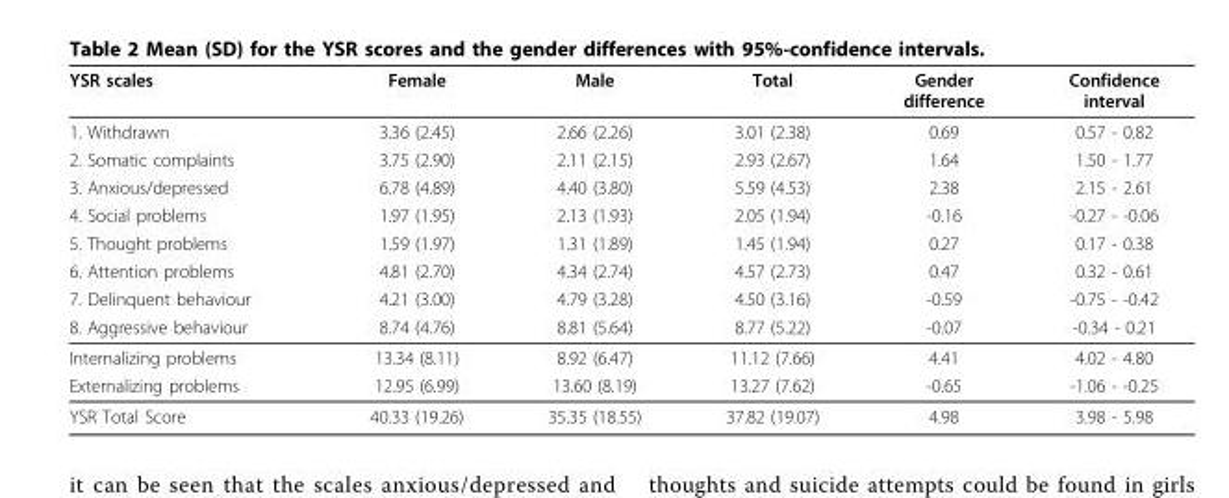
<table><thead><tr><td>YSR scales</td><td>Female</td><td>Male</td><td>Total</td><td>Gender difference</td><td>Confidence interval</td></tr></thead><tbody><tr><td>1. Withdrawn</td><td>3.36 (2.45)</td><td>2.66 (2.26)</td><td>3.01 (2.38)</td><td>0.69</td><td>0.57 - 0.82</td></tr><tr><td>2. Somatic complaints</td><td>3.75 (2.90)</td><td>2.11 (2.15)</td><td>2.93 (2.67)</td><td>1.64</td><td>1.50 - 1.77</td></tr><tr><td>3. Anxious/depressed</td><td>6.78 (4.89)</td><td>4.40 (3.80)</td><td>5.59 (4.53)</td><td>2.38</td><td>2.15 - 2.61</td></tr><tr><td>4. Social problems</td><td>1.97 (1.95)</td><td>2.13 (1.93)</td><td>2.05 (1.94)</td><td>-0.16</td><td>-0.27 - -0.06</td></tr><tr><td>5. Thought problems</td><td>1.59 (1.97)</td><td>1.31 (1.89)</td><td>1.45 (1.94)</td><td>0.27</td><td>0.17 - 0.38</td></tr><tr><td>6. Attention problems</td><td>4.81 (2.70)</td><td>4.34 (2.74)</td><td>4.57 (2.73)</td><td>0.47</td><td>0.32 - 0.61</td></tr><tr><td>7. Delinquent behaviour</td><td>4.21 (3.00)</td><td>4.79 (3.28)</td><td>4.50 (3.16)</td><td>-0.59</td><td>-0.75 - -0.42</td></tr><tr><td>8. Aggressive behaviour</td><td>8.74 (4.76)</td><td>8.81 (5.64)</td><td>8.77 (5.22)</td><td>-0.07</td><td>-0.34 - 0.21</td></tr><tr><td>Internalizing problems</td><td>13.34 (8.11)</td><td>8.92 (6.47)</td><td>11.12 (7.66)</td><td>4.41</td><td>4.02 - 4.80</td></tr><tr><td>Externalizing problems</td><td>12.95 (6.99)</td><td>13.60 (8.19)</td><td>13.27 (7.62)</td><td>-0.65</td><td>-1.06 - -0.25</td></tr><tr><td>YSR Total Score</td><td>40.33 (19.26)</td><td>35.35 (18.55)</td><td>37.82 (19.07)</td><td>4.98</td><td>3.98 - 5.98</td></tr></tbody></table>